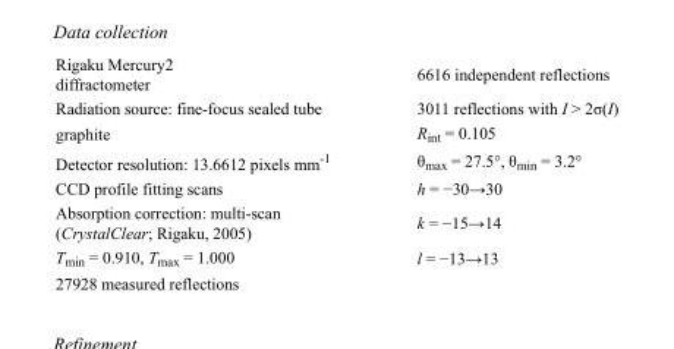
<table><tbody><tr><td>Rigaku Mercury2 diffractometer</td><td>6616 independent reflections</td></tr><tr><td>Radiation source: fine-focus sealed tube</td><td>3011 reflections with I &gt; 2σ(I)</td></tr><tr><td>graphite</td><td>R<sub>int</sub> = 0.105</td></tr><tr><td>Detector resolution: 13.6612 pixels mm<sup>-1</sup></td><td>θ<sub>max</sub> = 27.5°, θ<sub>min</sub> = 3.2°</td></tr><tr><td>CCD profile fitting scans</td><td>h = −30→30</td></tr><tr><td>Absorption correction: multi-scan (CrystalClear; Rigaku, 2005)</td><td>k = −15→14</td></tr><tr><td>T<sub>min</sub> = 0.910, T<sub>max</sub> = 1.000</td><td>l = −13→13</td></tr><tr><td>27928 measured reflections</td><td></td></tr></tbody></table>